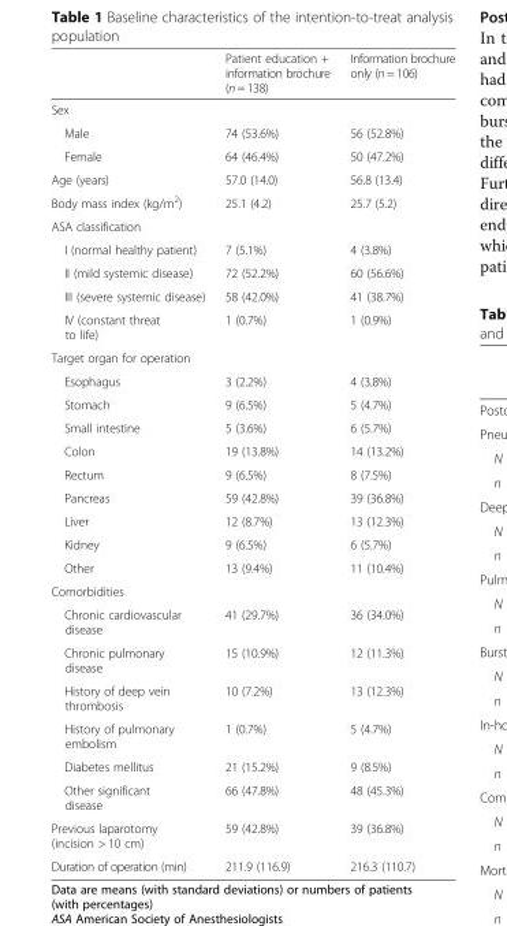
<table><thead><tr><td></td><td>Patient education + information brochure (n = 138)</td><td>Information brochure only (n = 106)</td></tr></thead><tbody><tr><td colspan="3">Sex</td></tr><tr><td>Male</td><td>74 (53.6%)</td><td>56 (52.8%)</td></tr><tr><td>Female</td><td>64 (46.4%)</td><td>50 (47.2%)</td></tr><tr><td>Age (years)</td><td>57.0 (14.0)</td><td>56.8 (13.4)</td></tr><tr><td>Body mass index (kg/m<sup>2</sup>)</td><td>25.1 (4.2)</td><td>25.7 (5.2)</td></tr><tr><td colspan="3">ASA classification</td></tr><tr><td>I (normal healthy patient)</td><td>7 (5.1%)</td><td>4 (3.8%)</td></tr><tr><td>II (mild systemic disease)</td><td>72 (52.2%)</td><td>60 (56.6%)</td></tr><tr><td>III (severe systemic disease)</td><td>58 (42.0%)</td><td>41 (38.7%)</td></tr><tr><td>IV (constant threat to life)</td><td>1 (0.7%)</td><td>1 (0.9%)</td></tr><tr><td colspan="3">Target organ for operation</td></tr><tr><td>Esophagus</td><td>3 (2.2%)</td><td>4 (3.8%)</td></tr><tr><td>Stomach</td><td>9 (6.5%)</td><td>5 (4.7%)</td></tr><tr><td>Small intestine</td><td>5 (3.6%)</td><td>6 (5.7%)</td></tr><tr><td>Colon</td><td>19 (13.8%)</td><td>14 (13.2%)</td></tr><tr><td>Rectum</td><td>9 (6.5%)</td><td>8 (7.5%)</td></tr><tr><td>Pancreas</td><td>59 (42.8%)</td><td>39 (36.8%)</td></tr><tr><td>Liver</td><td>12 (8.7%)</td><td>13 (12.3%)</td></tr><tr><td>Kidney</td><td>9 (6.5%)</td><td>6 (5.7%)</td></tr><tr><td>Other</td><td>13 (9.4%)</td><td>11 (10.4%)</td></tr><tr><td colspan="3">Comorbidities</td></tr><tr><td>Chronic cardiovascular disease</td><td>41 (29.7%)</td><td>36 (34.0%)</td></tr><tr><td>Chronic pulmonary disease</td><td>15 (10.9%)</td><td>12 (11.3%)</td></tr><tr><td>History of deep vein thrombosis</td><td>10 (7.2%)</td><td>13 (12.3%)</td></tr><tr><td>History of pulmonary embolism</td><td>1 (0.7%)</td><td>5 (4.7%)</td></tr><tr><td>Diabetes mellitus</td><td>21 (15.2%)</td><td>9 (8.5%)</td></tr><tr><td>Other significant disease</td><td>66 (47.8%)</td><td>48 (45.3%)</td></tr><tr><td>Previous laparotomy (incision &gt; 10 cm)</td><td>59 (42.8%)</td><td>39 (36.8%)</td></tr><tr><td>Duration of operation (min)</td><td>211.9 (116.9)</td><td>216.3 (110.7)</td></tr></tbody></table>